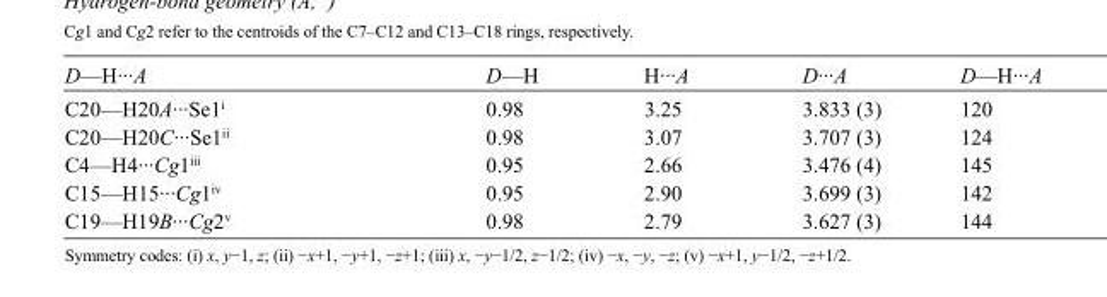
<table><tbody><tr><td>D—H···A</td><td>D—H</td><td>H···A</td><td>D···A</td><td>D—H···A</td></tr><tr><td>C20—H20A···Se1<sup>i</sup></td><td>0.98</td><td>3.25</td><td>3.833 (3)</td><td>120</td></tr><tr><td>C20—H20C···Se1<sup>ii</sup></td><td>0.98</td><td>3.07</td><td>3.707 (3)</td><td>124</td></tr><tr><td>C4—H4···Cg1<sup>iii</sup></td><td>0.95</td><td>2.66</td><td>3.476 (4)</td><td>145</td></tr><tr><td>C15—H15···Cg1<sup>iv</sup></td><td>0.95</td><td>2.90</td><td>3.699 (3)</td><td>142</td></tr><tr><td>C19—H19B···Cg2<sup>v</sup></td><td>0.98</td><td>2.79</td><td>3.627 (3)</td><td>144</td></tr></tbody></table>